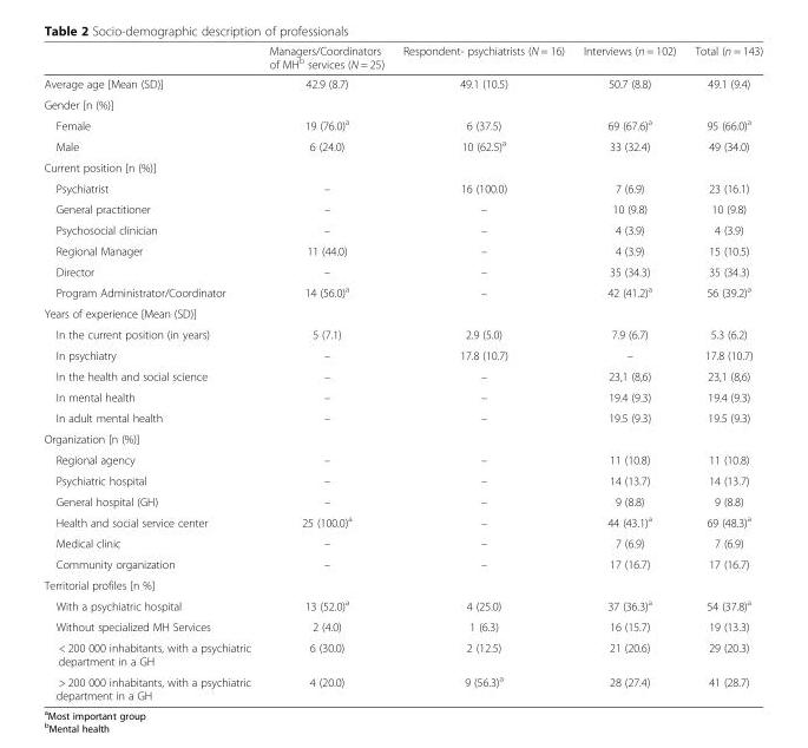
<table><thead><tr><td></td><td>Managers/Coordinators of MH<sup>b</sup> services (N = 25)</td><td>Respondent- psychiatrists (N = 16)</td><td>Interviews (n = 102)</td><td>Total (n = 143)</td></tr></thead><tbody><tr><td>Average age [Mean (SD)]</td><td>42.9 (8.7)</td><td>49.1 (10.5)</td><td>50.7 (8.8)</td><td>49.1 (9.4)</td></tr><tr><td colspan="5">Gender [n (%)]</td></tr><tr><td>Female</td><td>19 (76.0)<sup>a</sup></td><td>6 (37.5)</td><td>69 (67.6)<sup>a</sup></td><td>95 (66.0)<sup>a</sup></td></tr><tr><td>Male</td><td>6 (24.0)</td><td>10 (62.5)<sup>a</sup></td><td>33 (32.4)</td><td>49 (34.0)</td></tr><tr><td colspan="5">Current position [n (%)]</td></tr><tr><td>Psychiatrist</td><td>–</td><td>16 (100.0)</td><td>7 (6.9)</td><td>23 (16.1)</td></tr><tr><td>General practitioner</td><td>–</td><td>–</td><td>10 (9.8)</td><td>10 (9.8)</td></tr><tr><td>Psychosocial clinician</td><td>–</td><td>–</td><td>4 (3.9)</td><td>4 (3.9)</td></tr><tr><td>Regional Manager</td><td>11 (44.0)</td><td>–</td><td>4 (3.9)</td><td>15 (10.5)</td></tr><tr><td>Director</td><td>–</td><td>–</td><td>35 (34.3)</td><td>35 (34.3)</td></tr><tr><td>Program Administrator/Coordinator</td><td>14 (56.0)<sup>a</sup></td><td>–</td><td>42 (41.2)<sup>a</sup></td><td>56 (39.2)<sup>a</sup></td></tr><tr><td colspan="5">Years of experience [Mean (SD)]</td></tr><tr><td>In the current position (in years)</td><td>5 (7.1)</td><td>2.9 (5.0)</td><td>7.9 (6.7)</td><td>5.3 (6.2)</td></tr><tr><td>In psychiatry</td><td>–</td><td>17.8 (10.7)</td><td>–</td><td>17.8 (10.7)</td></tr><tr><td>In the health and social science</td><td>–</td><td>–</td><td>23,1 (8,6)</td><td>23,1 (8,6)</td></tr><tr><td>In mental health</td><td>–</td><td>–</td><td>19.4 (9.3)</td><td>19.4 (9.3)</td></tr><tr><td>In adult mental health</td><td>–</td><td>–</td><td>19.5 (9.3)</td><td>19.5 (9.3)</td></tr><tr><td colspan="5">Organization [n (%)]</td></tr><tr><td>Regional agency</td><td>–</td><td>–</td><td>11 (10.8)</td><td>11 (10.8)</td></tr><tr><td>Psychiatric hospital</td><td>–</td><td>–</td><td>14 (13.7)</td><td>14 (13.7)</td></tr><tr><td>General hospital (GH)</td><td>–</td><td>–</td><td>9 (8.8)</td><td>9 (8.8)</td></tr><tr><td>Health and social service center</td><td>25 (100.0)<sup>a</sup></td><td>–</td><td>44 (43.1)<sup>a</sup></td><td>69 (48.3)<sup>a</sup></td></tr><tr><td>Medical clinic</td><td>–</td><td>–</td><td>7 (6.9)</td><td>7 (6.9)</td></tr><tr><td>Community organization</td><td>–</td><td>–</td><td>17 (16.7)</td><td>17 (16.7)</td></tr><tr><td colspan="5">Territorial profiles [n %]</td></tr><tr><td>With a psychiatric hospital</td><td>13 (52.0)<sup>a</sup></td><td>4 (25.0)</td><td>37 (36.3)<sup>a</sup></td><td>54 (37.8)<sup>a</sup></td></tr><tr><td>Without specialized MH Services</td><td>2 (4.0)</td><td>1 (6.3)</td><td>16 (15.7)</td><td>19 (13.3)</td></tr><tr><td>&lt; 200 000 inhabitants, with a psychiatric department in a GH</td><td>6 (30.0)</td><td>2 (12.5)</td><td>21 (20.6)</td><td>29 (20.3)</td></tr><tr><td>&gt; 200 000 inhabitants, with a psychiatric department in a GH</td><td>4 (20.0)</td><td>9 (56.3)<sup>a</sup></td><td>28 (27.4)</td><td>41 (28.7)</td></tr></tbody></table>